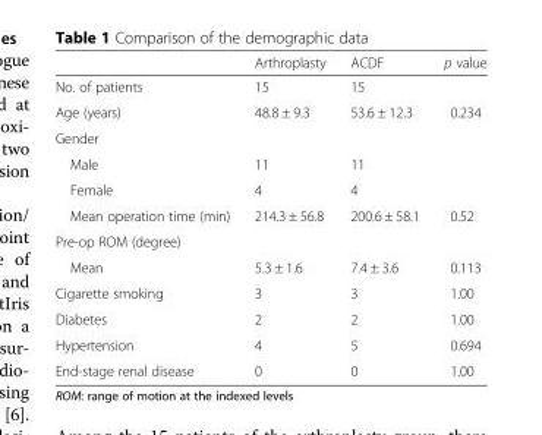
<table><thead><tr><td></td><td>Arthroplasty</td><td>ACDF</td><td>p value</td></tr></thead><tbody><tr><td>No. of patients</td><td>15</td><td>15</td><td></td></tr><tr><td>Age (years)</td><td>48.8 ± 9.3</td><td>53.6 ± 12.3</td><td>0.234</td></tr><tr><td colspan="4">Gender</td></tr><tr><td>Male</td><td>11</td><td>11</td><td></td></tr><tr><td>Female</td><td>4</td><td>4</td><td></td></tr><tr><td>Mean operation time (min)</td><td>214.3 ± 56.8</td><td>200.6 ± 58.1</td><td>0.52</td></tr><tr><td colspan="4">Pre-op ROM (degree)</td></tr><tr><td>Mean</td><td>5.3 ± 1.6</td><td>7.4 ± 3.6</td><td>0.113</td></tr><tr><td>Cigarette smoking</td><td>3</td><td>3</td><td>1.00</td></tr><tr><td>Diabetes</td><td>2</td><td>2</td><td>1.00</td></tr><tr><td>Hypertension</td><td>4</td><td>5</td><td>0.694</td></tr><tr><td>End-stage renal disease</td><td>0</td><td>0</td><td>1.00</td></tr></tbody></table>